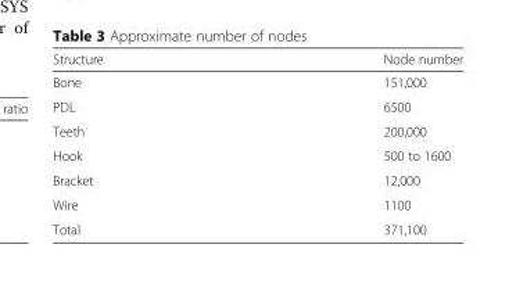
<table><thead><tr><td>Structure</td><td>Node number</td></tr></thead><tbody><tr><td>Bone</td><td>151,000</td></tr><tr><td>PDL</td><td>6500</td></tr><tr><td>Teeth</td><td>200,000</td></tr><tr><td>Hook</td><td>500 to 1600</td></tr><tr><td>Bracket</td><td>12,000</td></tr><tr><td>Wire</td><td>1100</td></tr><tr><td>Total</td><td>371,100</td></tr></tbody></table>